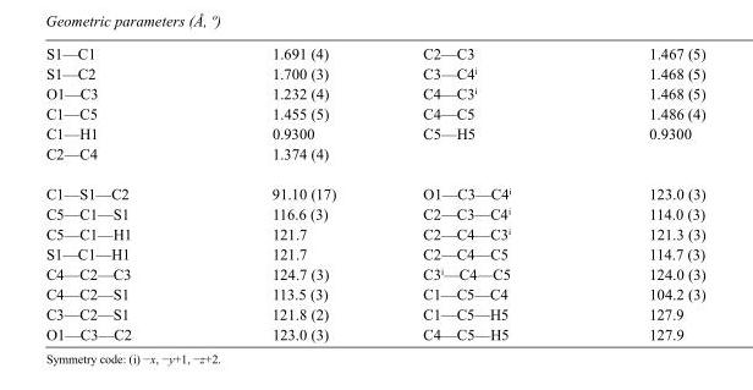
<table><tbody><tr><td>S1—C1</td><td>1.691 (4)</td><td>C2—C3</td><td>1.467 (5)</td></tr><tr><td>S1—C2</td><td>1.700 (3)</td><td>C3—C4<sup>i</sup></td><td>1.468 (5)</td></tr><tr><td>O1—C3</td><td>1.232 (4)</td><td>C4—C3<sup>i</sup></td><td>1.468 (5)</td></tr><tr><td>C1—C5</td><td>1.455 (5)</td><td>C4—C5</td><td>1.486 (4)</td></tr><tr><td>C1—H1</td><td>0.9300</td><td>C5—H5</td><td>0.9300</td></tr><tr><td>C2—C4</td><td>1.374 (4)</td><td></td><td></td></tr><tr><td>C1—S1—C2</td><td>91.10 (17)</td><td>O1—C3—C4<sup>i</sup></td><td>123.0 (3)</td></tr><tr><td>C5—C1—S1</td><td>116.6 (3)</td><td>C2—C3—C4<sup>i</sup></td><td>114.0 (3)</td></tr><tr><td>C5—C1—H1</td><td>121.7</td><td>C2—C4—C3<sup>i</sup></td><td>121.3 (3)</td></tr><tr><td>S1—C1—H1</td><td>121.7</td><td>C2—C4—C5</td><td>114.7 (3)</td></tr><tr><td>C4—C2—C3</td><td>124.7 (3)</td><td>C3<sup>i</sup>—C4—C5</td><td>124.0 (3)</td></tr><tr><td>C4—C2—S1</td><td>113.5 (3)</td><td>C1—C5—C4</td><td>104.2 (3)</td></tr><tr><td>C3—C2—S1</td><td>121.8 (2)</td><td>C1—C5—H5</td><td>127.9</td></tr><tr><td>O1—C3—C2</td><td>123.0 (3)</td><td>C4—C5—H5</td><td>127.9</td></tr></tbody></table>